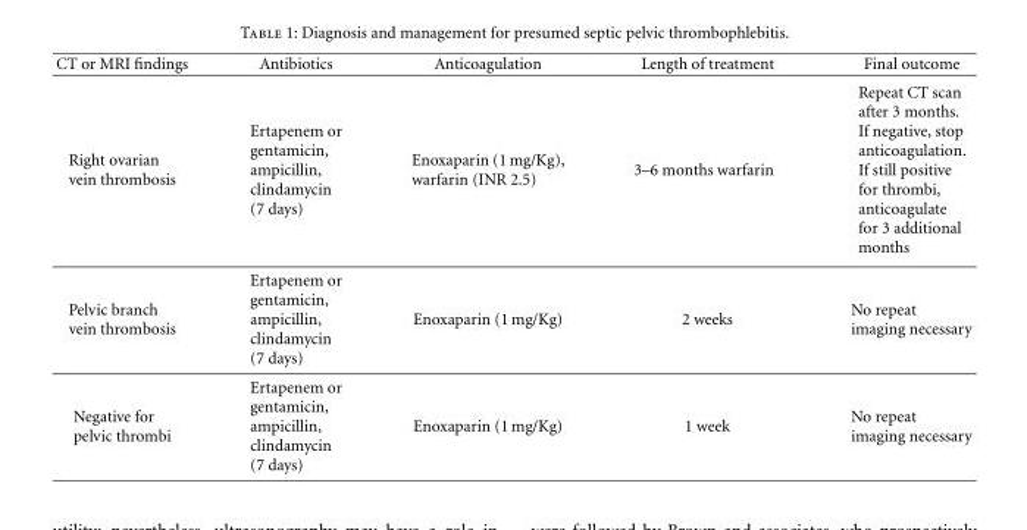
<table><tbody><tr><td>CT or MRI findings</td><td>Antibiotics</td><td>Anticoagulation</td><td>Length of treatment</td><td>Final outcome</td></tr><tr><td>Right ovarian vein thrombosis</td><td>Ertapenem or gentamicin, ampicillin, clindamycin (7 days)</td><td>Enoxaparin (1 mg/Kg), warfarin (INR 2.5)</td><td>3–6 months warfarin</td><td>Repeat CT scan after 3 months. If negative, stop anticoagulation. If still positive for thrombi, anticoagulate for 3 additional months</td></tr><tr><td>Pelvic branch vein thrombosis</td><td>Ertapenem or gentamicin, ampicillin, clindamycin (7 days)</td><td>Enoxaparin (1 mg/Kg)</td><td>2 weeks</td><td>No repeat imaging necessary</td></tr><tr><td>Negative for pelvic thrombi</td><td>Ertapenem or gentamicin, ampicillin, clindamycin (7 days)</td><td>Enoxaparin (1 mg/Kg)</td><td>1 week</td><td>No repeat imaging necessary</td></tr></tbody></table>